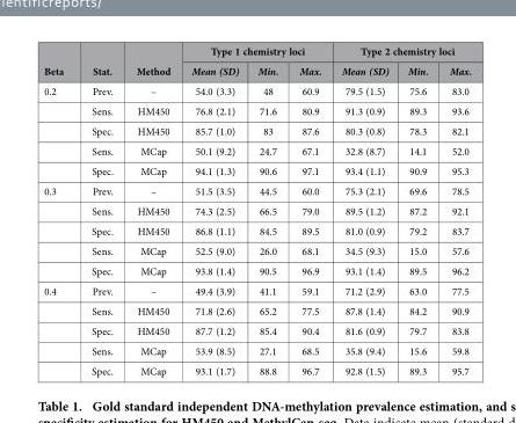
<table><thead><tr><td rowspan="2">Beta</td><td rowspan="2">Stat.</td><td rowspan="2">Method</td><td colspan="3">Type 1 chemistry loci</td><td colspan="3">Type 2 chemistry loci</td></tr><tr><td>Mean (SD)</td><td>Min.</td><td>Max.</td><td>Mean (SD)</td><td>Min.</td><td>Max.</td></tr></thead><tbody><tr><td rowspan="5">0.2</td><td>Prev.</td><td>–</td><td>54.0 (3.3)</td><td>48</td><td>60.9</td><td>79.5 (1.5)</td><td>75.6</td><td>83.0</td></tr><tr><td>Sens.</td><td>HM450</td><td>76.8 (2.1)</td><td>71.6</td><td>80.9</td><td>91.3 (0.9)</td><td>89.3</td><td>93.6</td></tr><tr><td>Spec.</td><td>HM450</td><td>85.7 (1.0)</td><td>83</td><td>87.6</td><td>80.3 (0.8)</td><td>78.3</td><td>82.1</td></tr><tr><td>Sens.</td><td>MCap</td><td>50.1 (9.2)</td><td>24.7</td><td>67.1</td><td>32.8 (8.7)</td><td>14.1</td><td>52.0</td></tr><tr><td>Spec.</td><td>MCap</td><td>94.1 (1.3)</td><td>90.6</td><td>97.1</td><td>93.4 (1.1)</td><td>90.9</td><td>95.3</td></tr><tr><td rowspan="5">0.3</td><td>Prev.</td><td>–</td><td>51.5 (3.5)</td><td>44.5</td><td>60.0</td><td>75.3 (2.1)</td><td>69.6</td><td>78.5</td></tr><tr><td>Sens.</td><td>HM450</td><td>74.3 (2.5)</td><td>66.5</td><td>79.0</td><td>89.5 (1.2)</td><td>87.2</td><td>92.1</td></tr><tr><td>Spec.</td><td>HM450</td><td>86.8 (1.1)</td><td>84.5</td><td>89.5</td><td>81.0 (0.9)</td><td>79.2</td><td>83.7</td></tr><tr><td>Sens.</td><td>MCap</td><td>52.5 (9.0)</td><td>26.0</td><td>68.1</td><td>34.5 (9.3)</td><td>15.0</td><td>57.6</td></tr><tr><td>Spec.</td><td>MCap</td><td>93.8 (1.4)</td><td>90.5</td><td>96.9</td><td>93.1 (1.4)</td><td>89.5</td><td>96.2</td></tr><tr><td rowspan="5">0.4</td><td>Prev.</td><td>–</td><td>49.4 (3.9)</td><td>41.1</td><td>59.1</td><td>71.2 (2.9)</td><td>63.0</td><td>77.5</td></tr><tr><td>Sens.</td><td>HM450</td><td>71.8 (2.6)</td><td>65.2</td><td>77.5</td><td>87.8 (1.4)</td><td>84.2</td><td>90.9</td></tr><tr><td>Spec.</td><td>HM450</td><td>87.7 (1.2)</td><td>85.4</td><td>90.4</td><td>81.6 (0.9)</td><td>79.7</td><td>83.8</td></tr><tr><td>Sens.</td><td>MCap</td><td>53.9 (8.5)</td><td>27.1</td><td>68.5</td><td>35.8 (9.4)</td><td>15.6</td><td>59.8</td></tr><tr><td>Spec.</td><td>MCap</td><td>93.1 (1.7)</td><td>88.8</td><td>96.7</td><td>92.8 (1.5)</td><td>89.3</td><td>95.7</td></tr></tbody></table>